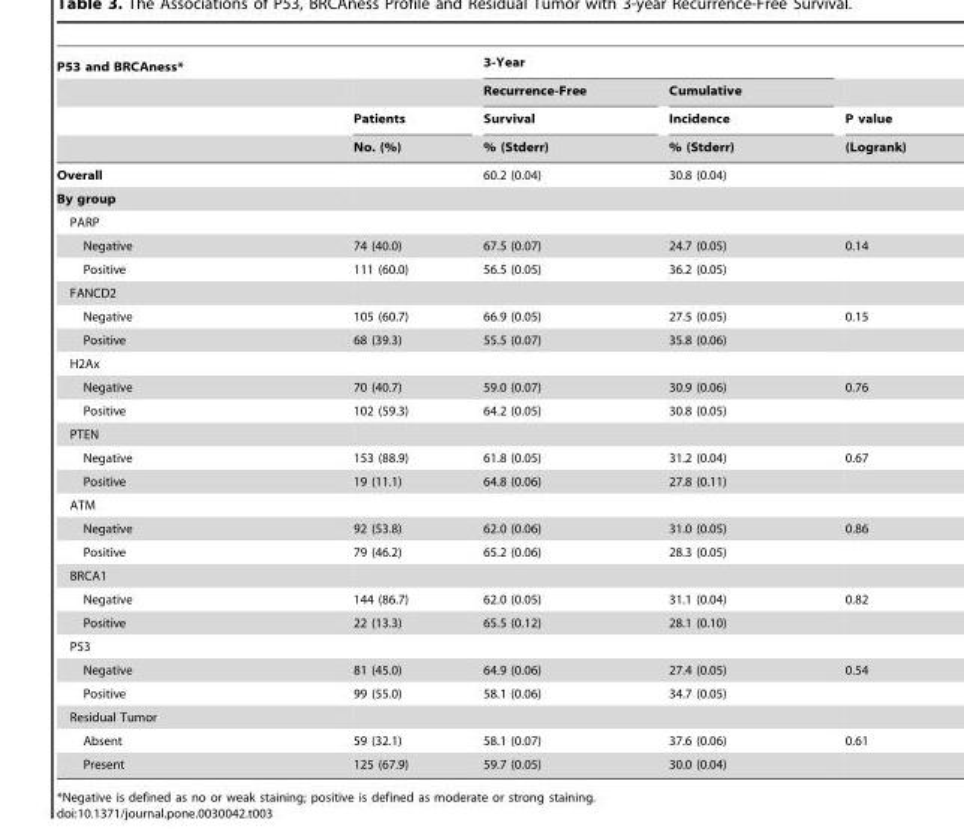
<table><thead><tr><td rowspan="4">P53 and BRCAness*</td><td rowspan="4">Patients No. (%)</td><td colspan="2">3-Year</td><td rowspan="4">P value (Logrank)</td></tr><tr><td rowspan="3">Recurrence-Free Survival % (Stderr)</td><td rowspan="3">Cumulative Incidence % (Stderr)</td></tr><tr></tr><tr></tr></thead><tbody><tr><td>Overall</td><td></td><td>60.2 (0.04)</td><td>30.8 (0.04)</td><td></td></tr><tr><td colspan="5">By group</td></tr><tr><td colspan="5">PARP</td></tr><tr><td>Negative</td><td>74 (40.0)</td><td>67.5 (0.07)</td><td>24.7 (0.05)</td><td>0.14</td></tr><tr><td>Positive</td><td>111 (60.0)</td><td>56.5 (0.05)</td><td>36.2 (0.05)</td><td></td></tr><tr><td colspan="5">FANCD2</td></tr><tr><td>Negative</td><td>105 (60.7)</td><td>66.9 (0.05)</td><td>27.5 (0.05)</td><td>0.15</td></tr><tr><td>Positive</td><td>68 (39.3)</td><td>55.5 (0.07)</td><td>35.8 (0.06)</td><td></td></tr><tr><td colspan="5">H2Ax</td></tr><tr><td>Negative</td><td>70 (40.7)</td><td>59.0 (0.07)</td><td>30.9 (0.06)</td><td>0.76</td></tr><tr><td>Positive</td><td>102 (59.3)</td><td>64.2 (0.05)</td><td>30.8 (0.05)</td><td></td></tr><tr><td colspan="5">PTEN</td></tr><tr><td>Negative</td><td>153 (88.9)</td><td>61.8 (0.05)</td><td>31.2 (0.04)</td><td>0.67</td></tr><tr><td>Positive</td><td>19 (11.1)</td><td>64.8 (0.06)</td><td>27.8 (0.11)</td><td></td></tr><tr><td colspan="5">ATM</td></tr><tr><td>Negative</td><td>92 (53.8)</td><td>62.0 (0.06)</td><td>31.0 (0.05)</td><td>0.86</td></tr><tr><td>Positive</td><td>79 (46.2)</td><td>65.2 (0.06)</td><td>28.3 (0.05)</td><td></td></tr><tr><td colspan="5">BRCA1</td></tr><tr><td>Negative</td><td>144 (86.7)</td><td>62.0 (0.05)</td><td>31.1 (0.04)</td><td>0.82</td></tr><tr><td>Positive</td><td>22 (13.3)</td><td>65.5 (0.12)</td><td>28.1 (0.10)</td><td></td></tr><tr><td colspan="5">P53</td></tr><tr><td>Negative</td><td>81 (45.0)</td><td>64.9 (0.06)</td><td>27.4 (0.05)</td><td>0.54</td></tr><tr><td>Positive</td><td>99 (55.0)</td><td>58.1 (0.06)</td><td>34.7 (0.05)</td><td></td></tr><tr><td colspan="5">Residual Tumor</td></tr><tr><td>Absent</td><td>59 (32.1)</td><td>58.1 (0.07)</td><td>37.6 (0.06)</td><td>0.61</td></tr><tr><td>Present</td><td>125 (67.9)</td><td>59.7 (0.05)</td><td>30.0 (0.04)</td><td></td></tr></tbody></table>